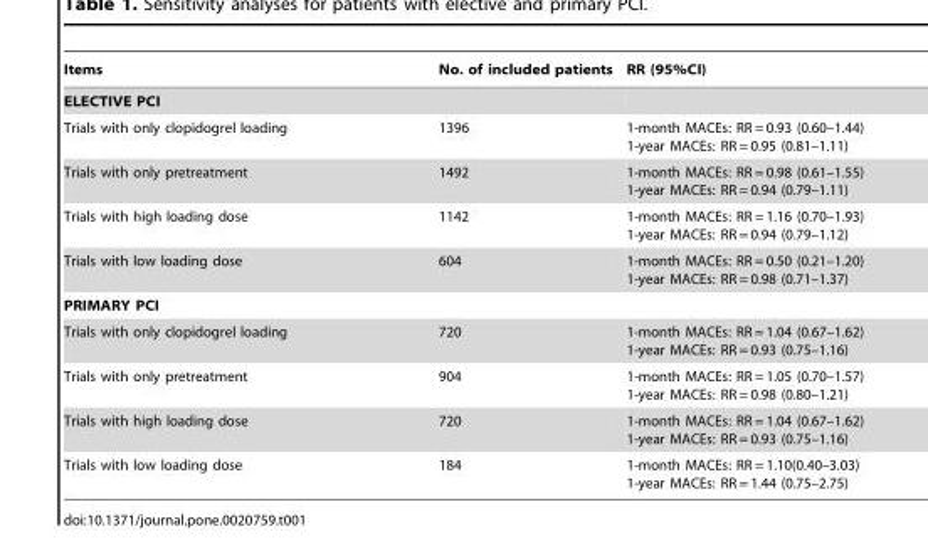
<table><thead><tr><td>Items</td><td>No. of included patients</td><td>RR (95%CI)</td></tr></thead><tbody><tr><td colspan="3">ELECTIVE PCI</td></tr><tr><td>Trials with only clopidogrel loading</td><td>1396</td><td>1-month MACEs: RR = 0.93 (0.60–1.44) 1-year MACEs: RR = 0.95 (0.81–1.11)</td></tr><tr><td>Trials with only pretreatment</td><td>1492</td><td>1-month MACEs: RR = 0.98 (0.61–1.55) 1-year MACEs: RR = 0.94 (0.79–1.11)</td></tr><tr><td>Trials with high loading dose</td><td>1142</td><td>1-month MACEs: RR = 1.16 (0.70–1.93) 1-year MACEs: RR = 0.94 (0.79–1.12)</td></tr><tr><td>Trials with low loading dose</td><td>604</td><td>1-month MACEs: RR = 0.50 (0.21–1.20) 1-year MACEs: RR = 0.98 (0.71–1.37)</td></tr><tr><td colspan="3">PRIMARY PCI</td></tr><tr><td>Trials with only clopidogrel loading</td><td>720</td><td>1-month MACEs: RR = 1.04 (0.67–1.62) 1-year MACEs: RR = 0.93 (0.75–1.16)</td></tr><tr><td>Trials with only pretreatment</td><td>904</td><td>1-month MACEs: RR = 1.05 (0.70–1.57) 1-year MACEs: RR = 0.98 (0.80–1.21)</td></tr><tr><td>Trials with high loading dose</td><td>720</td><td>1-month MACEs: RR = 1.04 (0.67–1.62) 1-year MACEs: RR = 0.93 (0.75–1.16)</td></tr><tr><td>Trials with low loading dose</td><td>184</td><td>1-month MACEs: RR = 1.10(0.40–3.03) 1-year MACEs: RR = 1.44 (0.75–2.75)</td></tr></tbody></table>